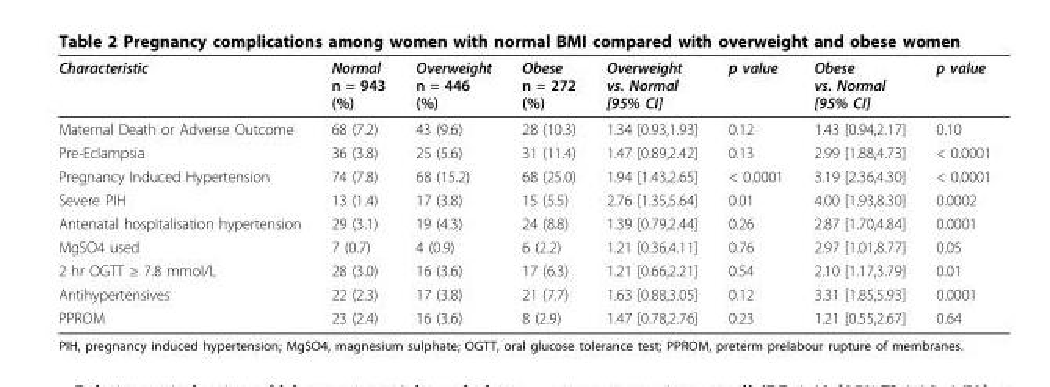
<table><thead><tr><td>Characteristic</td><td>Normal n = 943 (%)</td><td>Overweight n = 446 (%)</td><td>Obese n = 272 (%)</td><td>Overweight vs. Normal [95% CI]</td><td>p value</td><td>Obese vs. Normal [95% CI]</td><td>p value</td></tr></thead><tbody><tr><td>Maternal Death or Adverse Outcome</td><td>68 (7.2)</td><td>43 (9.6)</td><td>28 (10.3)</td><td>1.34 [0.93,1.93]</td><td>0.12</td><td>1.43 [0.94,2.17]</td><td>0.10</td></tr><tr><td>Pre-Eclampsia</td><td>36 (3.8)</td><td>25 (5.6)</td><td>31 (11.4)</td><td>1.47 [0.89,2.42]</td><td>0.13</td><td>2.99 [1.88,4.73]</td><td>&lt; 0.0001</td></tr><tr><td>Pregnancy Induced Hypertension</td><td>74 (7.8)</td><td>68 (15.2)</td><td>68 (25.0)</td><td>1.94 [1.43,2.65]</td><td>&lt; 0.0001</td><td>3.19 [2.36,4.30]</td><td>&lt; 0.0001</td></tr><tr><td>Severe PIH</td><td>13 (1.4)</td><td>17 (3.8)</td><td>15 (5.5)</td><td>2.76 [1.35,5.64]</td><td>0.01</td><td>4.00 [1.93,8.30]</td><td>0.0002</td></tr><tr><td>Antenatal hospitalisation hypertension</td><td>29 (3.1)</td><td>19 (4.3)</td><td>24 (8.8)</td><td>1.39 [0.79,2.44]</td><td>0.26</td><td>2.87 [1.70,4.84]</td><td>0.0001</td></tr><tr><td>MgSO4 used</td><td>7 (0.7)</td><td>4 (0.9)</td><td>6 (2.2)</td><td>1.21 [0.36,4.11]</td><td>0.76</td><td>2.97 [1.01,8.77]</td><td>0.05</td></tr><tr><td>2 hr OGTT ≥ 7.8 mmol/L</td><td>28 (3.0)</td><td>16 (3.6)</td><td>17 (6.3)</td><td>1.21 [0.66,2.21]</td><td>0.54</td><td>2.10 [1.17,3.79]</td><td>0.01</td></tr><tr><td>Antihypertensives</td><td>22 (2.3)</td><td>17 (3.8)</td><td>21 (7.7)</td><td>1.63 [0.88,3.05]</td><td>0.12</td><td>3.31 [1.85,5.93]</td><td>0.0001</td></tr><tr><td>PPROM</td><td>23 (2.4)</td><td>16 (3.6)</td><td>8 (2.9)</td><td>1.47 [0.78,2.76]</td><td>0.23</td><td>1.21 [0.55,2.67]</td><td>0.64</td></tr></tbody></table>